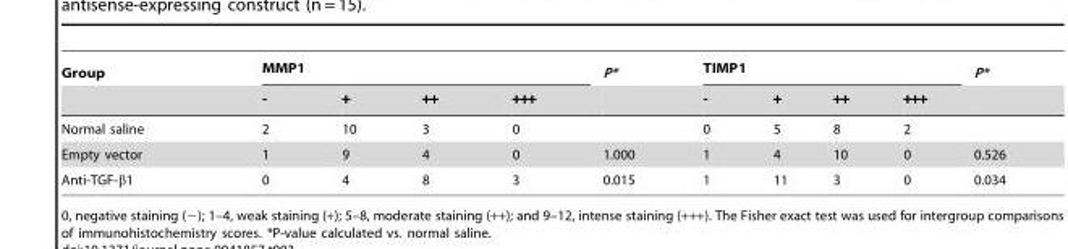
<table><thead><tr><td rowspan="2">Group</td><td colspan="4">MMP1</td><td rowspan="2">P*</td><td colspan="4">TIMP1</td><td rowspan="2">P*</td></tr><tr><td>-</td><td>+</td><td>++</td><td>+++</td><td>-</td><td>+</td><td>++</td><td>+++</td></tr></thead><tbody><tr><td>Normal saline</td><td>2</td><td>10</td><td>3</td><td>0</td><td></td><td>0</td><td>5</td><td>8</td><td>2</td><td></td></tr><tr><td>Empty vector</td><td>1</td><td>9</td><td>4</td><td>0</td><td>1.000</td><td>1</td><td>4</td><td>10</td><td>0</td><td>0.526</td></tr><tr><td>Anti-TGF-β1</td><td>0</td><td>4</td><td>8</td><td>3</td><td>0.015</td><td>1</td><td>11</td><td>3</td><td>0</td><td>0.034</td></tr></tbody></table>